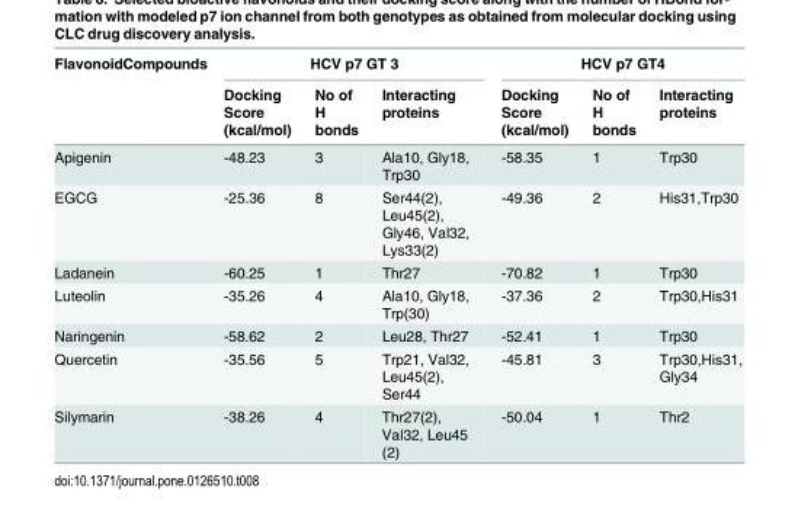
<table><thead><tr><td rowspan="2">FlavonoidCompounds</td><td colspan="3">HCV p7 GT 3</td><td colspan="3">HCV p7 GT4</td></tr><tr><td>Docking Score (kcal/mol)</td><td>No of H bonds</td><td>Interacting proteins</td><td>Docking Score (kcal/mol)</td><td>No of H bonds</td><td>Interacting proteins</td></tr></thead><tbody><tr><td>Apigenin</td><td>-48.23</td><td>3</td><td>Ala10, Gly18, Trp30</td><td>-58.35</td><td>1</td><td>Trp30</td></tr><tr><td>EGCG</td><td>-25.36</td><td>8</td><td>Ser44(2), Leu45(2), Gly46, Val32, Lys33(2)</td><td>-49.36</td><td>2</td><td>His31,Trp30</td></tr><tr><td>Ladanein</td><td>-60.25</td><td>1</td><td>Thr27</td><td>-70.82</td><td>1</td><td>Trp30</td></tr><tr><td>Luteolin</td><td>-35.26</td><td>4</td><td>Ala10, Gly18, Trp(30)</td><td>-37.36</td><td>2</td><td>Trp30,His31</td></tr><tr><td>Naringenin</td><td>-58.62</td><td>2</td><td>Leu28, Thr27</td><td>-52.41</td><td>1</td><td>Trp30</td></tr><tr><td>Quercetin</td><td>-35.56</td><td>5</td><td>Trp21, Val32, Leu45(2), Ser44</td><td>-45.81</td><td>3</td><td>Trp30,His31, Gly34</td></tr><tr><td>Silymarin</td><td>-38.26</td><td>4</td><td>Thr27(2), Val32, Leu45 (2)</td><td>-50.04</td><td>1</td><td>Thr2</td></tr></tbody></table>